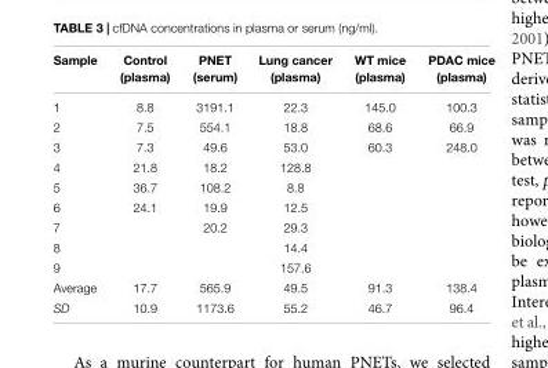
<table><thead><tr><td>Sample</td><td>Control (plasma)</td><td>PNET (serum)</td><td>Lung cancer (plasma)</td><td>WT mice (plasma)</td><td>PDAC mice (plasma)</td></tr></thead><tbody><tr><td>1</td><td>8.8</td><td>3191.1</td><td>22.3</td><td>145.0</td><td>100.3</td></tr><tr><td>2</td><td>7.5</td><td>554.1</td><td>18.8</td><td>68.6</td><td>66.9</td></tr><tr><td>3</td><td>7.3</td><td>49.6</td><td>53.0</td><td>60.3</td><td>248.0</td></tr><tr><td>4</td><td>21.8</td><td>18.2</td><td>128.8</td><td></td><td></td></tr><tr><td>5</td><td>36.7</td><td>108.2</td><td>8.8</td><td></td><td></td></tr><tr><td>6</td><td>24.1</td><td>19.9</td><td>12.5</td><td></td><td></td></tr><tr><td>7</td><td></td><td>20.2</td><td>29.3</td><td></td><td></td></tr><tr><td>8</td><td></td><td></td><td>14.4</td><td></td><td></td></tr><tr><td>9</td><td></td><td></td><td>157.6</td><td></td><td></td></tr><tr><td>Average</td><td>17.7</td><td>565.9</td><td>49.5</td><td>91.3</td><td>138.4</td></tr><tr><td>SD</td><td>10.9</td><td>1173.6</td><td>55.2</td><td>46.7</td><td>96.4</td></tr></tbody></table>